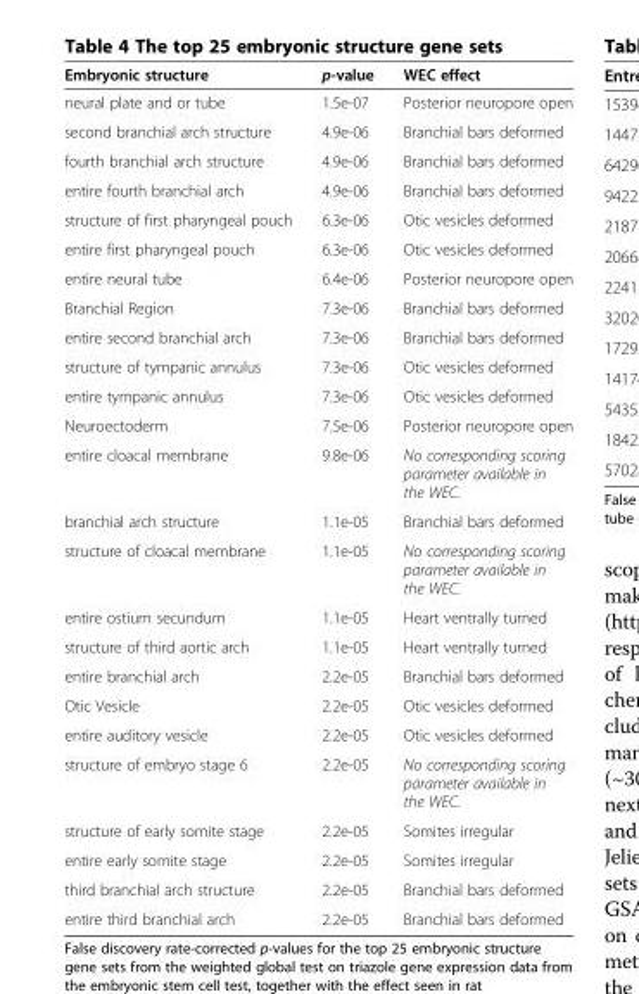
<table><thead><tr><td>Embryonic structure</td><td>p-value</td><td>WEC effect</td></tr></thead><tbody><tr><td>neural plate and or tube</td><td>1.5e-07</td><td>Posterior neuropore open</td></tr><tr><td>second branchial arch structure</td><td>4.9e-06</td><td>Branchial bars deformed</td></tr><tr><td>fourth branchial arch structure</td><td>4.9e-06</td><td>Branchial bars deformed</td></tr><tr><td>entire fourth branchial arch</td><td>4.9e-06</td><td>Branchial bars deformed</td></tr><tr><td>structure of first pharyngeal pouch</td><td>6.3e-06</td><td>Otic vesicles deformed</td></tr><tr><td>entire first pharyngeal pouch</td><td>6.3e-06</td><td>Otic vesicles deformed</td></tr><tr><td>entire neural tube</td><td>6.4e-06</td><td>Posterior neuropore open</td></tr><tr><td>Branchial Region</td><td>7.3e-06</td><td>Branchial bars deformed</td></tr><tr><td>entire second branchial arch</td><td>7.3e-06</td><td>Branchial bars deformed</td></tr><tr><td>structure of tympanic annulus</td><td>7.3e-06</td><td>Otic vesicles deformed</td></tr><tr><td>entire tympanic annulus</td><td>7.3e-06</td><td>Otic vesicles deformed</td></tr><tr><td>Neuroectoderm</td><td>7.5e-06</td><td>Posterior neuropore open</td></tr><tr><td>entire cloacal membrane</td><td>9.8e-06</td><td>No corresponding scoring parameter available in the WEC.</td></tr><tr><td>branchial arch structure</td><td>1.1e-05</td><td>Branchial bars deformed</td></tr><tr><td>structure of cloacal membrane</td><td>1.1e-05</td><td>No corresponding scoring parameter available in the WEC.</td></tr><tr><td>entire ostium secundum</td><td>1.1e-05</td><td>Heart ventrally turned</td></tr><tr><td>structure of third aortic arch</td><td>1.1e-05</td><td>Heart ventrally turned</td></tr><tr><td>entire branchial arch</td><td>2.2e-05</td><td>Branchial bars deformed</td></tr><tr><td>Otic Vesicle</td><td>2.2e-05</td><td>Otic vesicles deformed</td></tr><tr><td>entire auditory vesicle</td><td>2.2e-05</td><td>Otic vesicles deformed</td></tr><tr><td>structure of embryo stage 6</td><td>2.2e-05</td><td>No corresponding scoring parameter available in the WEC.</td></tr><tr><td>structure of early somite stage</td><td>2.2e-05</td><td>Somites irregular</td></tr><tr><td>entire early somite stage</td><td>2.2e-05</td><td>Somites irregular</td></tr><tr><td>third branchial arch structure</td><td>2.2e-05</td><td>Branchial bars deformed</td></tr><tr><td>entire third branchial arch</td><td>2.2e-05</td><td>Branchial bars deformed</td></tr></tbody></table>